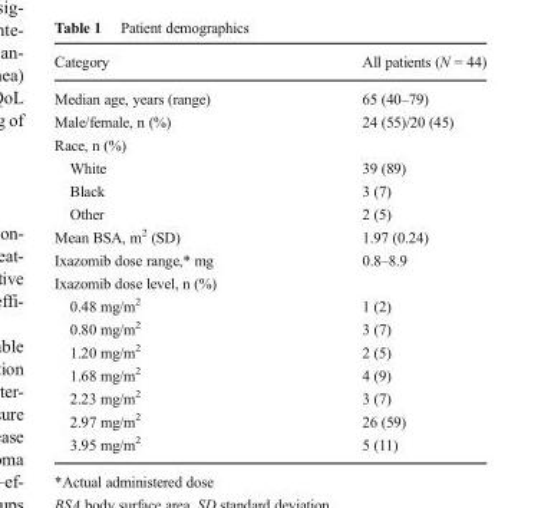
<table><thead><tr><td>Category</td><td>All patients (N = 44)</td></tr></thead><tbody><tr><td>Median age, years (range)</td><td>65 (40–79)</td></tr><tr><td>Male/female, n (%)</td><td>24 (55)/20 (45)</td></tr><tr><td colspan="2">Race, n (%)</td></tr><tr><td>White</td><td>39 (89)</td></tr><tr><td>Black</td><td>3 (7)</td></tr><tr><td>Other</td><td>2 (5)</td></tr><tr><td>Mean BSA, m<sup>2</sup> (SD)</td><td>1.97 (0.24)</td></tr><tr><td>Ixazomib dose range,* mg</td><td>0.8–8.9</td></tr><tr><td colspan="2">Ixazomib dose level, n (%)</td></tr><tr><td>0.48 mg/m<sup>2</sup></td><td>1 (2)</td></tr><tr><td>0.80 mg/m<sup>2</sup></td><td>3 (7)</td></tr><tr><td>1.20 mg/m<sup>2</sup></td><td>2 (5)</td></tr><tr><td>1.68 mg/m<sup>2</sup></td><td>4 (9)</td></tr><tr><td>2.23 mg/m<sup>2</sup></td><td>3 (7)</td></tr><tr><td>2.97 mg/m<sup>2</sup></td><td>26 (59)</td></tr><tr><td>3.95 mg/m<sup>2</sup></td><td>5 (11)</td></tr></tbody></table>